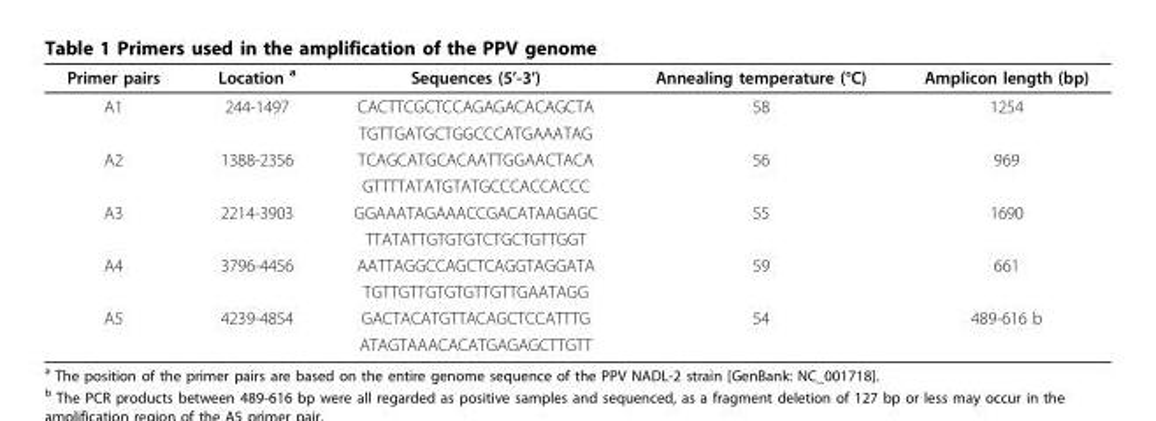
<table><thead><tr><td>Primer pairs</td><td>Location <sup>a</sup></td><td>Sequences (5’-3’)</td><td>Annealing temperature (°C)</td><td>Amplicon length (bp)</td></tr></thead><tbody><tr><td rowspan="2">A1</td><td>244-1497</td><td>CACTTCGCTCCAGAGACACAGCTA</td><td>58</td><td>1254</td></tr><tr><td></td><td>TGTTGATGCTGGCCCATGAAATAG</td><td></td><td></td></tr><tr><td rowspan="2">A2</td><td>1388-2356</td><td>TCAGCATGCACAATTGGAACTACA</td><td>56</td><td>969</td></tr><tr><td></td><td>GTTTTATATGTATGCCCACCACCC</td><td></td><td></td></tr><tr><td rowspan="2">A3</td><td>2214-3903</td><td>GGAAATAGAAACCGACATAAGAGC</td><td>55</td><td>1690</td></tr><tr><td></td><td>TTATATTGTGTGTCTGCTGTTGGT</td><td></td><td></td></tr><tr><td rowspan="2">A4</td><td>3796-4456</td><td>AATTAGGCCAGCTCAGGTAGGATA</td><td>59</td><td>661</td></tr><tr><td></td><td>TGTTGTTGTGTGTTGTTGAATAGG</td><td></td><td></td></tr><tr><td rowspan="2">A5</td><td>4239-4854</td><td>GACTACATGTTACAGCTCCATTTG</td><td>54</td><td>489-616 b</td></tr><tr><td></td><td>ATAGTAAACACATGAGAGCTTGTT</td><td></td><td></td></tr></tbody></table>